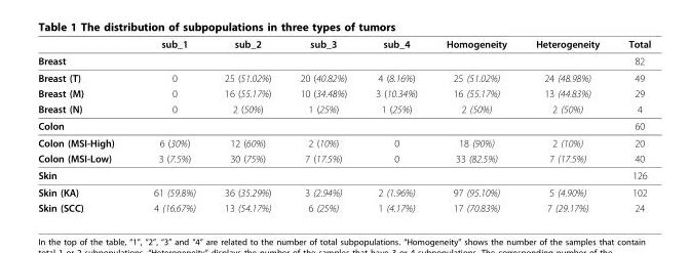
<table><thead><tr><td></td><td>sub_1</td><td>sub_2</td><td>sub_3</td><td>sub_4</td><td>Homogeneity</td><td>Heterogeneity</td><td>Total</td></tr></thead><tbody><tr><td>Breast</td><td></td><td></td><td></td><td></td><td></td><td></td><td>82</td></tr><tr><td>Breast (T)</td><td>0</td><td>25 (51.02%)</td><td>20 (40.82%)</td><td>4 (8.16%)</td><td>25 (51.02%)</td><td>24 (48.98%)</td><td>49</td></tr><tr><td>Breast (M)</td><td>0</td><td>16 (55.17%)</td><td>10 (34.48%)</td><td>3 (10.34%)</td><td>16 (55.17%)</td><td>13 (44.83%)</td><td>29</td></tr><tr><td>Breast (N)</td><td>0</td><td>2 (50%)</td><td>1 (25%)</td><td>1 (25%)</td><td>2 (50%)</td><td>2 (50%)</td><td>4</td></tr><tr><td>Colon</td><td></td><td></td><td></td><td></td><td></td><td></td><td>60</td></tr><tr><td>Colon (MSI-High)</td><td>6 (30%)</td><td>12 (60%)</td><td>2 (10%)</td><td>0</td><td>18 (90%)</td><td>2 (10%)</td><td>20</td></tr><tr><td>Colon (MSI-Low)</td><td>3 (7.5%)</td><td>30 (75%)</td><td>7 (17.5%)</td><td>0</td><td>33 (82.5%)</td><td>7 (17.5%)</td><td>40</td></tr><tr><td>Skin</td><td></td><td></td><td></td><td></td><td></td><td></td><td>126</td></tr><tr><td>Skin (KA)</td><td>61 (59.8%)</td><td>36 (35.29%)</td><td>3 (2.94%)</td><td>2 (1.96%)</td><td>97 (95.10%)</td><td>5 (4.90%)</td><td>102</td></tr><tr><td>Skin (SCC)</td><td>4 (16.67%)</td><td>13 (54.17%)</td><td>6 (25%)</td><td>1 (4.17%)</td><td>17 (70.83%)</td><td>7 (29.17%)</td><td>24</td></tr></tbody></table>